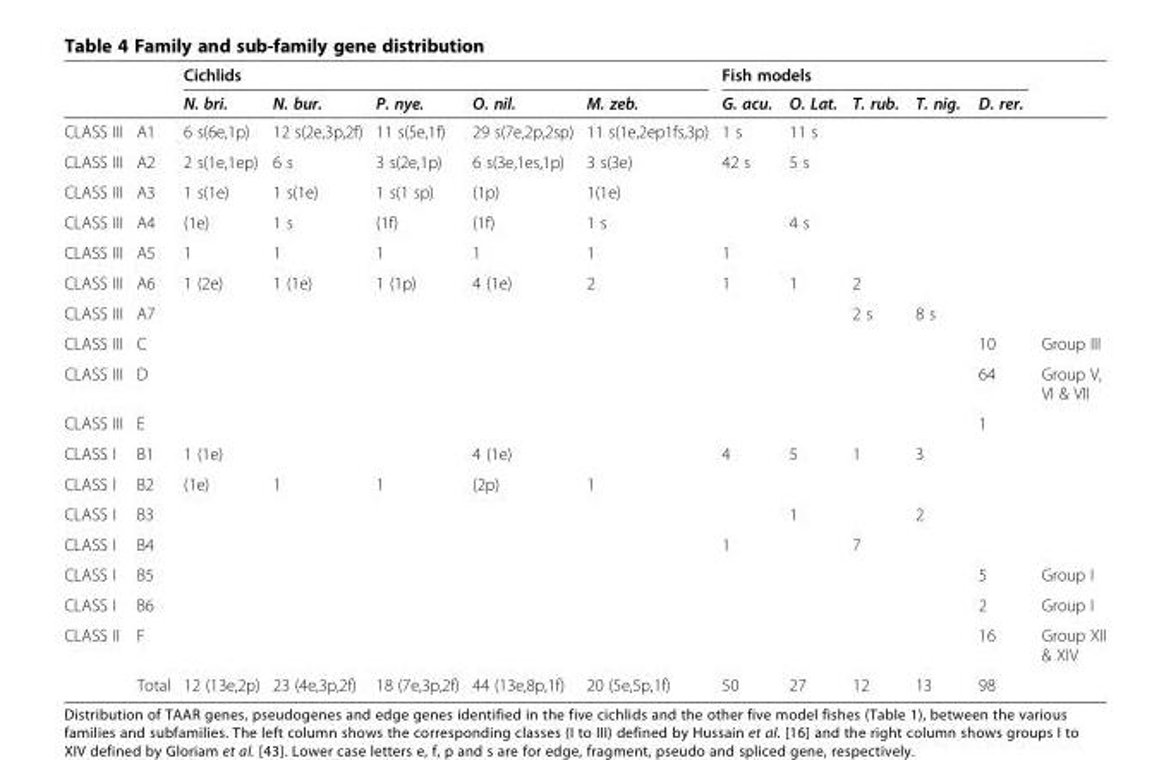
<table><thead><tr><td rowspan="2"></td><td rowspan="2"></td><td colspan="5">Cichlids</td><td colspan="5">Fish models</td><td rowspan="2"></td></tr><tr><td>N. bri.</td><td>N. bur.</td><td>P. nye.</td><td>O. nil.</td><td>M. zeb.</td><td>G. acu.</td><td>O. Lat.</td><td>T. rub.</td><td>T. nig.</td><td>D. rer.</td></tr></thead><tbody><tr><td>CLASS III</td><td>A1</td><td>6 s(6e,1p)</td><td>12 s(2e,3p,2f)</td><td>11 s(5e,1f)</td><td>29 s(7e,2p,2sp)</td><td>11 s(1e,2ep1fs,3p)</td><td>1 s</td><td>11 s</td><td></td><td></td><td></td><td></td></tr><tr><td>CLASS III</td><td>A2</td><td>2 s(1e,1ep)</td><td>6 s</td><td>3 s(2e,1p)</td><td>6 s(3e,1es,1p)</td><td>3 s(3e)</td><td>42 s</td><td>5 s</td><td></td><td></td><td></td><td></td></tr><tr><td>CLASS III</td><td>A3</td><td>1 s(1e)</td><td>1 s(1e)</td><td>1 s(1 sp)</td><td>(1p)</td><td>1(1e)</td><td></td><td></td><td></td><td></td><td></td><td></td></tr><tr><td>CLASS III</td><td>A4</td><td>(1e)</td><td>1 s</td><td>(1f)</td><td>(1f)</td><td>1 s</td><td></td><td>4 s</td><td></td><td></td><td></td><td></td></tr><tr><td>CLASS III</td><td>A5</td><td>1</td><td>1</td><td>1</td><td>1</td><td>1</td><td>1</td><td></td><td></td><td></td><td></td><td></td></tr><tr><td>CLASS III</td><td>A6</td><td>1 (2e)</td><td>1 (1e)</td><td>1 (1p)</td><td>4 (1e)</td><td>2</td><td>1</td><td>1</td><td>2</td><td></td><td></td><td></td></tr><tr><td>CLASS III</td><td>A7</td><td></td><td></td><td></td><td></td><td></td><td></td><td></td><td>2 s</td><td>8 s</td><td></td><td></td></tr><tr><td>CLASS III</td><td>C</td><td></td><td></td><td></td><td></td><td></td><td></td><td></td><td></td><td></td><td>10</td><td>Group III</td></tr><tr><td>CLASS III</td><td>D</td><td></td><td></td><td></td><td></td><td></td><td></td><td></td><td></td><td></td><td>64</td><td>Group V, VI &amp; VII</td></tr><tr><td>CLASS III</td><td>E</td><td></td><td></td><td></td><td></td><td></td><td></td><td></td><td></td><td></td><td>1</td><td></td></tr><tr><td>CLASS I</td><td>B1</td><td>1 (1e)</td><td></td><td></td><td>4 (1e)</td><td></td><td>4</td><td>5</td><td>1</td><td>3</td><td></td><td></td></tr><tr><td>CLASS I</td><td>B2</td><td>(1e)</td><td>1</td><td>1</td><td>(2p)</td><td>1</td><td></td><td></td><td></td><td></td><td></td><td></td></tr><tr><td>CLASS I</td><td>B3</td><td></td><td></td><td></td><td></td><td></td><td></td><td>1</td><td></td><td>2</td><td></td><td></td></tr><tr><td>CLASS I</td><td>B4</td><td></td><td></td><td></td><td></td><td></td><td>1</td><td></td><td>7</td><td></td><td></td><td></td></tr><tr><td>CLASS I</td><td>B5</td><td></td><td></td><td></td><td></td><td></td><td></td><td></td><td></td><td></td><td>5</td><td>Group I</td></tr><tr><td>CLASS I</td><td>B6</td><td></td><td></td><td></td><td></td><td></td><td></td><td></td><td></td><td></td><td>2</td><td>Group I</td></tr><tr><td rowspan="2">CLASS II</td><td>F</td><td></td><td></td><td></td><td></td><td></td><td></td><td></td><td></td><td></td><td>16</td><td>Group XII &amp; XIV</td></tr><tr><td>Total</td><td>12 (13e,2p)</td><td>23 (4e,3p,2f)</td><td>18 (7e,3p,2f)</td><td>44 (13e,8p,1f)</td><td>20 (5e,5p,1f)</td><td>50</td><td>27</td><td>12</td><td>13</td><td>98</td><td></td></tr></tbody></table>